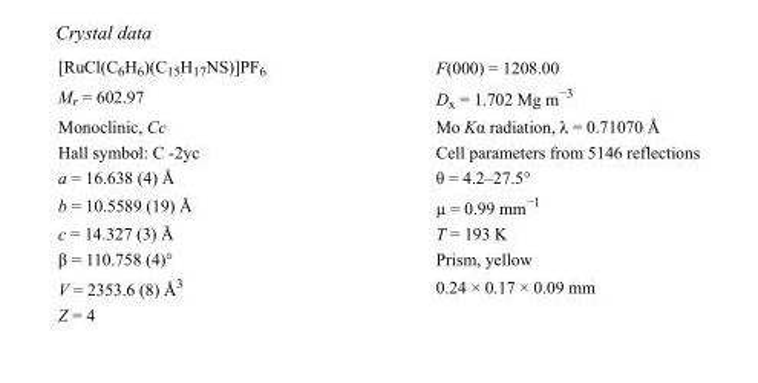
<table><tbody><tr><td>[RuCl(C<sub>6</sub>H<sub>6</sub>)(C<sub>15</sub>H<sub>17</sub>NS)]PF<sub>6</sub></td><td>F(000) = 1208.00</td></tr><tr><td>M<sub>r</sub> = 602.97</td><td>D<sub>x</sub> = 1.702 Mg m<sup>−3</sup></td></tr><tr><td>Monoclinic, Cc</td><td>Mo Kα radiation, λ = 0.71070 Å</td></tr><tr><td>Hall symbol: C -2yc</td><td>Cell parameters from 5146 reflections</td></tr><tr><td>a = 16.638 (4) Å</td><td>θ = 4.2–27.5°</td></tr><tr><td>b = 10.5589 (19) Å</td><td>µ = 0.99 mm<sup>−1</sup></td></tr><tr><td>c = 14.327 (3) Å</td><td>T = 193 K</td></tr><tr><td>β = 110.758 (4)°</td><td>Prism, yellow</td></tr><tr><td>V = 2353.6 (8) Å<sup>3</sup></td><td>0.24 × 0.17 × 0.09 mm</td></tr><tr><td>Z = 4</td><td></td></tr></tbody></table>